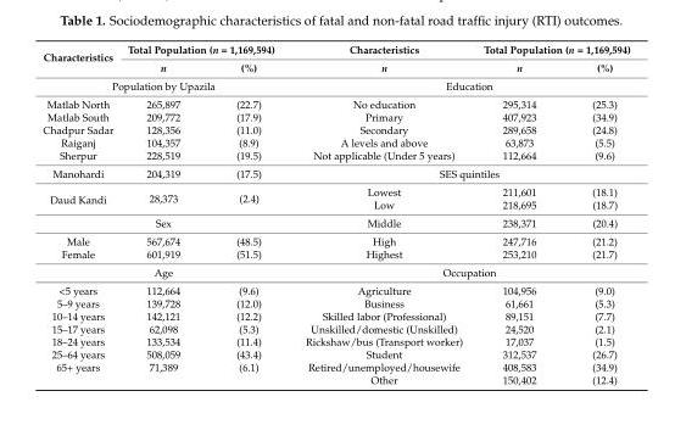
<table><thead><tr><td rowspan="2">Characteristics</td><td colspan="2">Total Population (n = 1,169,594)</td><td rowspan="2">Characteristics n</td><td colspan="2">Total Population (n = 1,169,594)</td></tr><tr><td>n</td><td>(%)</td><td>n</td><td>(%)</td></tr></thead><tbody><tr><td colspan="3">Population by Upazila</td><td colspan="3">Education</td></tr><tr><td>Matlab North</td><td>265,897</td><td>(22.7)</td><td>No education</td><td>295,314</td><td>(25.3)</td></tr><tr><td>Matlab South</td><td>209,772</td><td>(17.9)</td><td>Primary</td><td>407,923</td><td>(34.9)</td></tr><tr><td>Chadpur Sadar</td><td>128,356</td><td>(11.0)</td><td>Secondary</td><td>289,658</td><td>(24.8)</td></tr><tr><td>Raiganj</td><td>104,357</td><td>(8.9)</td><td>A levels and above</td><td>63,873</td><td>(5.5)</td></tr><tr><td>Sherpur</td><td>228,519</td><td>(19.5)</td><td>Not applicable (Under 5 years)</td><td>112,664</td><td>(9.6)</td></tr><tr><td>Manohardi</td><td>204,319</td><td>(17.5)</td><td colspan="3">SES quintiles</td></tr><tr><td rowspan="2">Daud Kandi</td><td rowspan="2">28,373</td><td rowspan="2">(2.4)</td><td>Lowest</td><td>211,601</td><td>(18.1)</td></tr><tr><td>Low</td><td>218,695</td><td>(18.7)</td></tr><tr><td colspan="3">Sex</td><td>Middle</td><td>238,371</td><td>(20.4)</td></tr><tr><td>Male</td><td>567,674</td><td>(48.5)</td><td>High</td><td>247,716</td><td>(21.2)</td></tr><tr><td>Female</td><td>601,919</td><td>(51.5)</td><td>Highest</td><td>253,210</td><td>(21.7)</td></tr><tr><td colspan="3">Age</td><td colspan="3">Occupation</td></tr><tr><td>&lt;5 years</td><td>112,664</td><td>(9.6)</td><td>Agriculture</td><td>104,956</td><td>(9.0)</td></tr><tr><td>5–9 years</td><td>139,728</td><td>(12.0)</td><td>Business</td><td>61,661</td><td>(5.3)</td></tr><tr><td>10–14 years</td><td>142,121</td><td>(12.2)</td><td>Skilled labor (Professional)</td><td>89,151</td><td>(7.7)</td></tr><tr><td>15–17 years</td><td>62,098</td><td>(5.3)</td><td>Unskilled/domestic (Unskilled)</td><td>24,520</td><td>(2.1)</td></tr><tr><td>18–24 years</td><td>133,534</td><td>(11.4)</td><td>Rickshaw/bus (Transport worker)</td><td>17,037</td><td>(1.5)</td></tr><tr><td>25–64 years</td><td>508,059</td><td>(43.4)</td><td>Student</td><td>312,537</td><td>(26.7)</td></tr><tr><td rowspan="2">65+ years</td><td>71,389</td><td>(6.1)</td><td>Retired/unemployed/housewife</td><td>408,583</td><td>(34.9)</td></tr><tr><td></td><td></td><td>Other</td><td>150,402</td><td>(12.4)</td></tr></tbody></table>